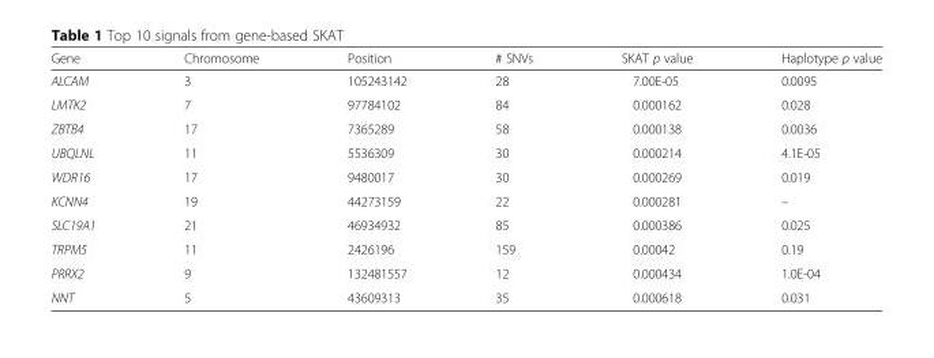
<table><thead><tr><td>Gene</td><td>Chromosome</td><td>Position</td><td># SNVs</td><td>SKAT p value</td><td>Haplotype p value</td></tr></thead><tbody><tr><td>ALCAM</td><td>3</td><td>105243142</td><td>28</td><td>7.00E-05</td><td>0.0095</td></tr><tr><td>LMTK2</td><td>7</td><td>97784102</td><td>84</td><td>0.000162</td><td>0.028</td></tr><tr><td>ZBTB4</td><td>17</td><td>7365289</td><td>58</td><td>0.000138</td><td>0.0036</td></tr><tr><td>UBQLNL</td><td>11</td><td>5536309</td><td>30</td><td>0.000214</td><td>4.1E-05</td></tr><tr><td>WDR16</td><td>17</td><td>9480017</td><td>30</td><td>0.000269</td><td>0.019</td></tr><tr><td>KCNN4</td><td>19</td><td>44273159</td><td>22</td><td>0.000281</td><td>–</td></tr><tr><td>SLC19A1</td><td>21</td><td>46934932</td><td>85</td><td>0.000386</td><td>0.025</td></tr><tr><td>TRPM5</td><td>11</td><td>2426196</td><td>159</td><td>0.00042</td><td>0.19</td></tr><tr><td>PRRX2</td><td>9</td><td>132481557</td><td>12</td><td>0.000434</td><td>1.0E-04</td></tr><tr><td>NNT</td><td>5</td><td>43609313</td><td>35</td><td>0.000618</td><td>0.031</td></tr></tbody></table>